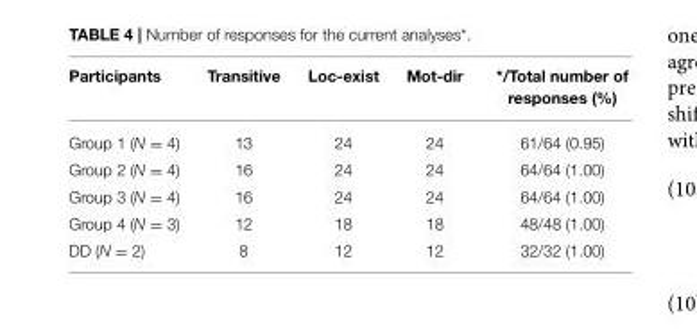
<table><thead><tr><td>Participants</td><td>Transitive</td><td>Loc-exist</td><td>Mot-dir</td><td>*/Total number of responses (%)</td></tr></thead><tbody><tr><td>Group 1 (N = 4)</td><td>13</td><td>24</td><td>24</td><td>61/64 (0.95)</td></tr><tr><td>Group 2 (N = 4)</td><td>16</td><td>24</td><td>24</td><td>64/64 (1.00)</td></tr><tr><td>Group 3 (N = 4)</td><td>16</td><td>24</td><td>24</td><td>64/64 (1.00)</td></tr><tr><td>Group 4 (N = 3)</td><td>12</td><td>18</td><td>18</td><td>48/48 (1.00)</td></tr><tr><td>DD (N = 2)</td><td>8</td><td>12</td><td>12</td><td>32/32 (1.00)</td></tr></tbody></table>